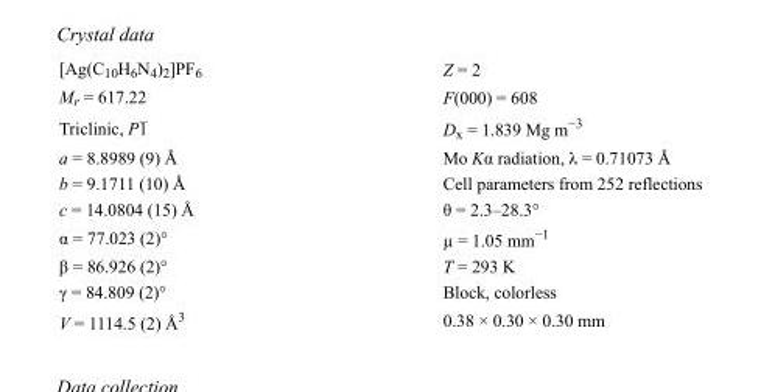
<table><tbody><tr><td>[Ag(C<sub>10</sub>H<sub>6</sub>N<sub>4</sub>)<sub>2</sub>]PF<sub>6</sub></td><td>Z = 2</td></tr><tr><td>M<sub>r</sub> = 617.22</td><td>F(000) = 608</td></tr><tr><td>Triclinic, P1</td><td>D<sub>x</sub> = 1.839 Mg m<sup>−3</sup></td></tr><tr><td>a = 8.8989 (9) Å</td><td>Mo Kα radiation, λ = 0.71073 Å</td></tr><tr><td>b = 9.1711 (10) Å</td><td>Cell parameters from 252 reflections</td></tr><tr><td>c = 14.0804 (15) Å</td><td>θ = 2.3–28.3°</td></tr><tr><td>α = 77.023 (2)°</td><td>µ = 1.05 mm<sup>−1</sup></td></tr><tr><td>β = 86.926 (2)°</td><td>T = 293 K</td></tr><tr><td>γ = 84.809 (2)°</td><td>Block, colorless</td></tr><tr><td>V = 1114.5 (2) Å<sup>3</sup></td><td>0.38 × 0.30 × 0.30 mm</td></tr></tbody></table>